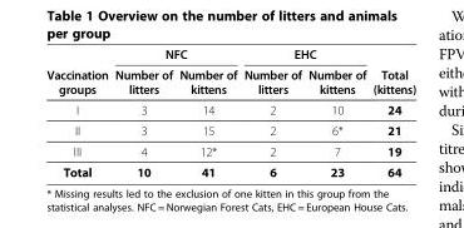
<table><thead><tr><td rowspan="2">Vaccination groups</td><td colspan="2">NFC</td><td colspan="2">EHC</td><td rowspan="2">Total (kittens)</td></tr><tr><td>Number of litters</td><td>Number of kittens</td><td>Number of litters</td><td>Number of kittens</td></tr></thead><tbody><tr><td>I</td><td>3</td><td>14</td><td>2</td><td>10</td><td>24</td></tr><tr><td>II</td><td>3</td><td>15</td><td>2</td><td>6*</td><td>21</td></tr><tr><td>III</td><td>4</td><td>12*</td><td>2</td><td>7</td><td>19</td></tr><tr><td>Total</td><td>10</td><td>41</td><td>6</td><td>23</td><td>64</td></tr></tbody></table>